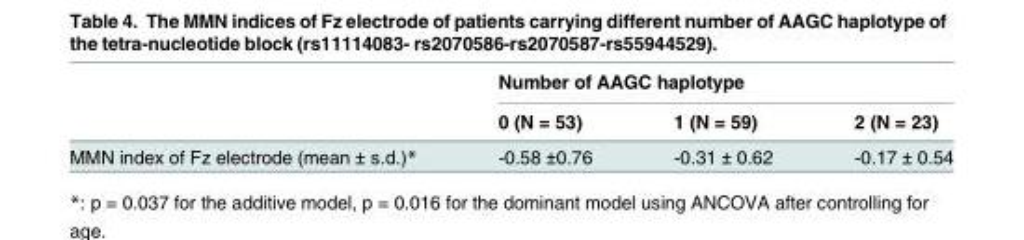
<table><thead><tr><td rowspan="2"></td><td colspan="3">Number of AAGC haplotype</td></tr><tr><td>0 (N = 53)</td><td>1 (N = 59)</td><td>2 (N = 23)</td></tr></thead><tbody><tr><td>MMN index of Fz electrode (mean ± s.d.)*</td><td>-0.58 ±0.76</td><td>-0.31 ± 0.62</td><td>-0.17 ± 0.54</td></tr></tbody></table>